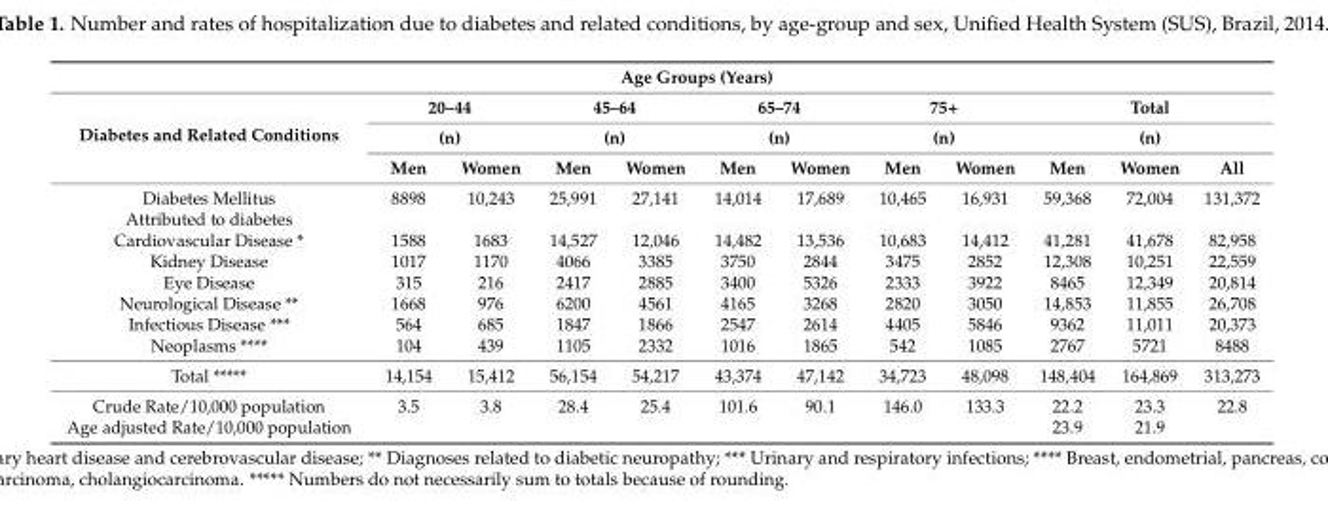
<table><thead><tr><td rowspan="4">Diabetes and Related Conditions</td><td colspan="8">Age Groups (Years)</td><td></td><td></td><td></td></tr><tr><td rowspan="2" colspan="2">20–44 (n)</td><td rowspan="2" colspan="2">45–64 (n)</td><td rowspan="2" colspan="2">65–74 (n)</td><td rowspan="2" colspan="2">75+ (n)</td><td rowspan="2" colspan="3">Total (n)</td></tr><tr></tr><tr><td>Men</td><td>Women</td><td>Men</td><td>Women</td><td>Men</td><td>Women</td><td>Men</td><td>Women</td><td>Men</td><td>Women</td><td>All</td></tr></thead><tbody><tr><td>Diabetes Mellitus</td><td>8898</td><td>10,243</td><td>25,991</td><td>27,141</td><td>14,014</td><td>17,689</td><td>10,465</td><td>16,931</td><td>59,368</td><td>72,004</td><td>131,372</td></tr><tr><td colspan="12">Attributed to diabetes</td></tr><tr><td>Cardiovascular Disease *</td><td>1588</td><td>1683</td><td>14,527</td><td>12,046</td><td>14,482</td><td>13,536</td><td>10,683</td><td>14,412</td><td>41,281</td><td>41,678</td><td>82,958</td></tr><tr><td>Kidney Disease</td><td>1017</td><td>1170</td><td>4066</td><td>3385</td><td>3750</td><td>2844</td><td>3475</td><td>2852</td><td>12,308</td><td>10,251</td><td>22,559</td></tr><tr><td>Eye Disease</td><td>315</td><td>216</td><td>2417</td><td>2885</td><td>3400</td><td>5326</td><td>2333</td><td>3922</td><td>8465</td><td>12,349</td><td>20,814</td></tr><tr><td>Neurological Disease **</td><td>1668</td><td>976</td><td>6200</td><td>4561</td><td>4165</td><td>3268</td><td>2820</td><td>3050</td><td>14,853</td><td>11,855</td><td>26,708</td></tr><tr><td>Infectious Disease ***</td><td>564</td><td>685</td><td>1847</td><td>1866</td><td>2547</td><td>2614</td><td>4405</td><td>5846</td><td>9362</td><td>11,011</td><td>20,373</td></tr><tr><td>Neoplasms ****</td><td>104</td><td>439</td><td>1105</td><td>2332</td><td>1016</td><td>1865</td><td>542</td><td>1085</td><td>2767</td><td>5721</td><td>8488</td></tr><tr><td>Total *****</td><td>14,154</td><td>15,412</td><td>56,154</td><td>54,217</td><td>43,374</td><td>47,142</td><td>34,723</td><td>48,098</td><td>148,404</td><td>164,869</td><td>313,273</td></tr><tr><td>Crude Rate/10,000 population</td><td>3.5</td><td>3.8</td><td>28.4</td><td>25.4</td><td>101.6</td><td>90.1</td><td>146.0</td><td>133.3</td><td>22.2</td><td>23.3</td><td>22.8</td></tr><tr><td>Age adjusted Rate/10,000 population</td><td></td><td></td><td></td><td></td><td></td><td></td><td></td><td></td><td>23.9</td><td>21.9</td><td></td></tr></tbody></table>